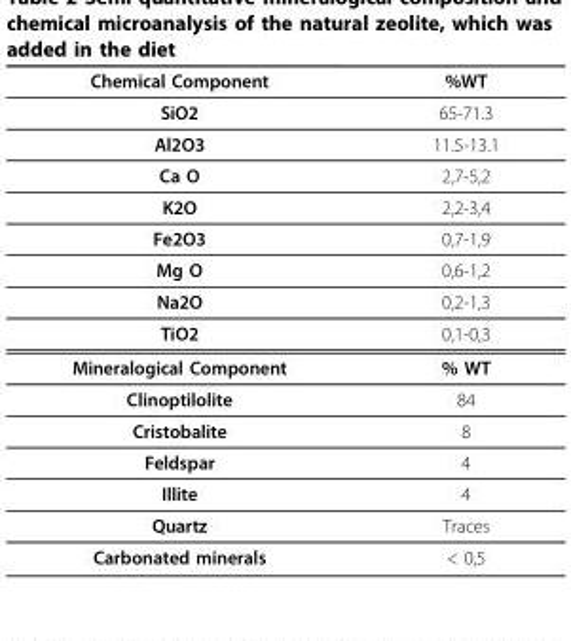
<table><thead><tr><td>Chemical Component</td><td>%WT</td></tr></thead><tbody><tr><td>SiO2</td><td>65-71.3</td></tr><tr><td>Al2O3</td><td>11.5-13.1</td></tr><tr><td>Ca O</td><td>2,7-5,2</td></tr><tr><td>K2O</td><td>2,2-3,4</td></tr><tr><td>Fe2O3</td><td>0,7-1,9</td></tr><tr><td>Mg O</td><td>0,6-1,2</td></tr><tr><td>Na2O</td><td>0,2-1,3</td></tr><tr><td>TiO2</td><td>0,1-0,3</td></tr><tr><td>Mineralogical Component</td><td>% WT</td></tr><tr><td>Clinoptilolite</td><td>84</td></tr><tr><td>Cristobalite</td><td>8</td></tr><tr><td>Feldspar</td><td>4</td></tr><tr><td>Illite</td><td>4</td></tr><tr><td>Quartz</td><td>Traces</td></tr><tr><td>Carbonated minerals</td><td>&lt; 0,5</td></tr></tbody></table>